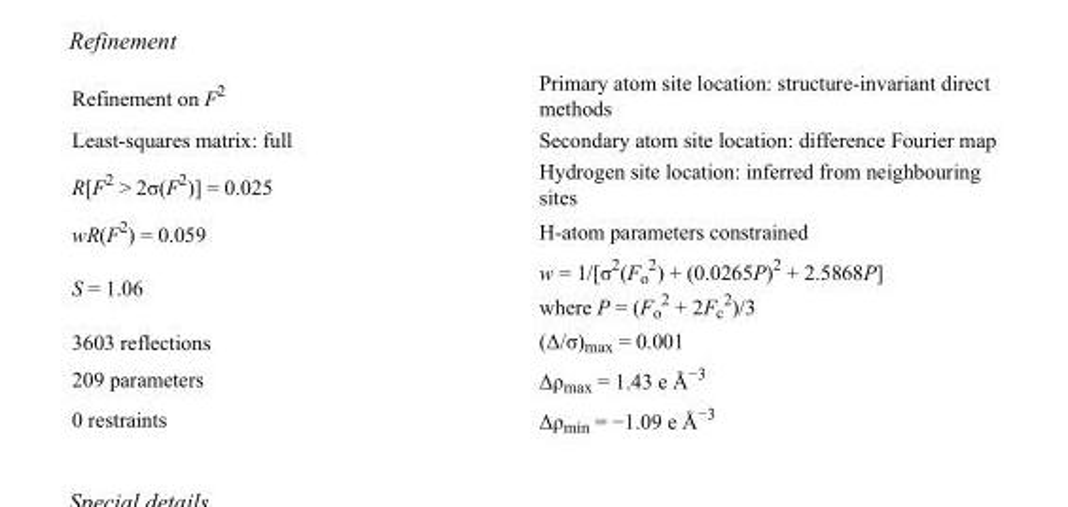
<table><tbody><tr><td>Refinement on F<sup>2</sup></td><td>Primary atom site location: structure-invariant direct methods</td></tr><tr><td>Least-squares matrix: full</td><td>Secondary atom site location: difference Fourier map</td></tr><tr><td>R[F<sup>2</sup> &gt; 2σ(F<sup>2</sup>)] = 0.025</td><td>Hydrogen site location: inferred from neighbouring sites</td></tr><tr><td>wR(F<sup>2</sup>) = 0.059</td><td>H-atom parameters constrained</td></tr><tr><td>S = 1.06</td><td>w = 1/[σ<sup>2</sup>(F<sub>o</sub> <sup>2</sup>) + (0.0265P)<sup>2</sup> + 2.5868P] where P = (F<sub>o</sub> <sup>2</sup> + 2F<sub>c</sub> <sup>2</sup>)/3</td></tr><tr><td>3603 reflections</td><td>(Δ/σ)<sub>max</sub> = 0.001</td></tr><tr><td>209 parameters</td><td>Δρ<sub>max</sub> = 1.43 e Å<sup>−3</sup></td></tr><tr><td>0 restraints</td><td>Δρ<sub>min</sub> = −1.09 e Å<sup>−3</sup></td></tr></tbody></table>